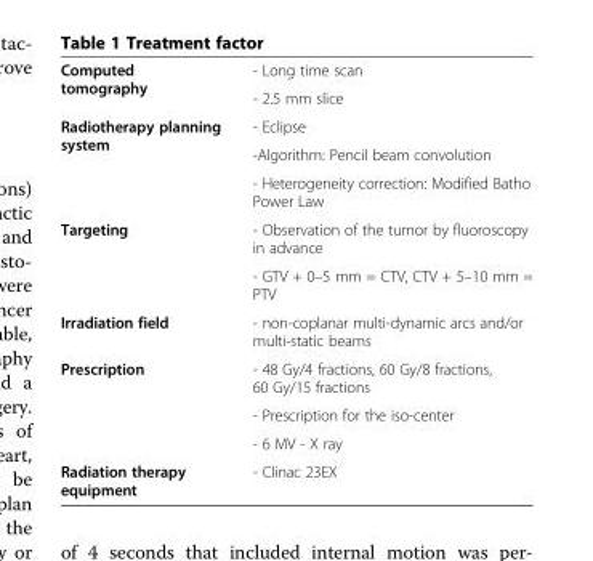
<table><tbody><tr><td rowspan="2">Computed tomography</td><td>- Long time scan</td></tr><tr><td>- 2.5 mm slice</td></tr><tr><td rowspan="3">Radiotherapy planning system</td><td>- Eclipse</td></tr><tr><td>-Algorithm: Pencil beam convolution</td></tr><tr><td>- Heterogeneity correction: Modified Batho Power Law</td></tr><tr><td rowspan="2">Targeting</td><td>- Observation of the tumor by fluoroscopy in advance</td></tr><tr><td>- GTV + 0–5 mm = CTV, CTV + 5–10 mm = PTV</td></tr><tr><td>Irradiation field</td><td>- non-coplanar multi-dynamic arcs and/or multi-static beams</td></tr><tr><td rowspan="3">Prescription</td><td>- 48 Gy/4 fractions, 60 Gy/8 fractions, 60 Gy/15 fractions</td></tr><tr><td>- Prescription for the iso-center</td></tr><tr><td>- 6 MV - X ray</td></tr><tr><td>Radiation therapy equipment</td><td>- Clinac 23EX</td></tr></tbody></table>